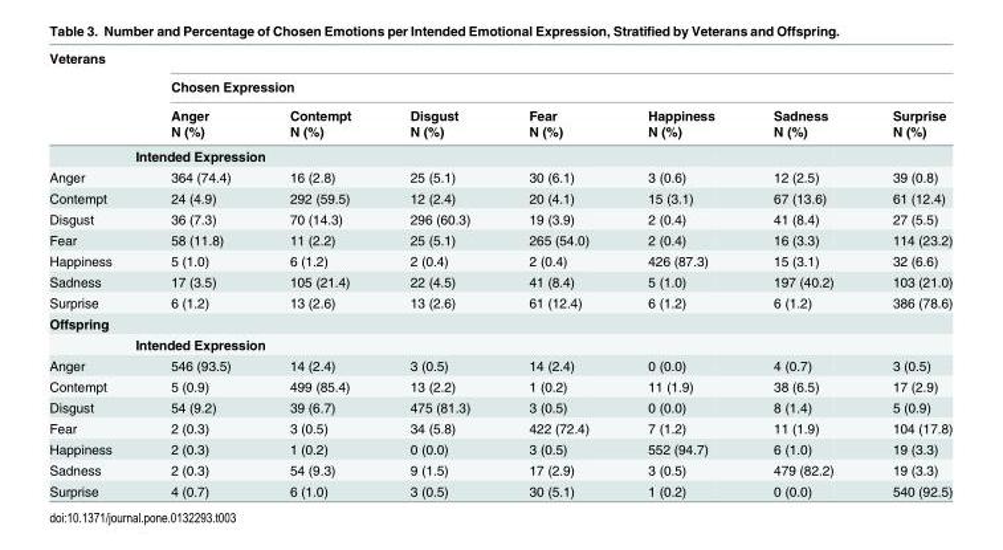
<table><thead><tr><td rowspan="4">Veterans</td><td></td><td></td><td></td><td></td><td></td><td></td><td></td></tr><tr><td colspan="7">Chosen Expression</td></tr><tr><td rowspan="2">Anger N (%)</td><td rowspan="2">Contempt N (%)</td><td rowspan="2">Disgust N (%)</td><td rowspan="2">Fear N (%)</td><td rowspan="2">Happiness N (%)</td><td rowspan="2">Sadness N (%)</td><td rowspan="2">Surprise N (%)</td></tr><tr></tr></thead><tbody><tr><td colspan="8">Intended Expression</td></tr><tr><td>Anger</td><td>364 (74.4)</td><td>16 (2.8)</td><td>25 (5.1)</td><td>30 (6.1)</td><td>3 (0.6)</td><td>12 (2.5)</td><td>39 (0.8)</td></tr><tr><td>Contempt</td><td>24 (4.9)</td><td>292 (59.5)</td><td>12 (2.4)</td><td>20 (4.1)</td><td>15 (3.1)</td><td>67 (13.6)</td><td>61 (12.4)</td></tr><tr><td>Disgust</td><td>36 (7.3)</td><td>70 (14.3)</td><td>296 (60.3)</td><td>19 (3.9)</td><td>2 (0.4)</td><td>41 (8.4)</td><td>27 (5.5)</td></tr><tr><td>Fear</td><td>58 (11.8)</td><td>11 (2.2)</td><td>25 (5.1)</td><td>265 (54.0)</td><td>2 (0.4)</td><td>16 (3.3)</td><td>114 (23.2)</td></tr><tr><td>Happiness</td><td>5 (1.0)</td><td>6 (1.2)</td><td>2 (0.4)</td><td>2 (0.4)</td><td>426 (87.3)</td><td>15 (3.1)</td><td>32 (6.6)</td></tr><tr><td>Sadness</td><td>17 (3.5)</td><td>105 (21.4)</td><td>22 (4.5)</td><td>41 (8.4)</td><td>5 (1.0)</td><td>197 (40.2)</td><td>103 (21.0)</td></tr><tr><td>Surprise</td><td>6 (1.2)</td><td>13 (2.6)</td><td>13 (2.6)</td><td>61 (12.4)</td><td>6 (1.2)</td><td>6 (1.2)</td><td>386 (78.6)</td></tr><tr><td colspan="8">Offspring</td></tr><tr><td colspan="8">Intended Expression</td></tr><tr><td>Anger</td><td>546 (93.5)</td><td>14 (2.4)</td><td>3 (0.5)</td><td>14 (2.4)</td><td>0 (0.0)</td><td>4 (0.7)</td><td>3 (0.5)</td></tr><tr><td>Contempt</td><td>5 (0.9)</td><td>499 (85.4)</td><td>13 (2.2)</td><td>1 (0.2)</td><td>11 (1.9)</td><td>38 (6.5)</td><td>17 (2.9)</td></tr><tr><td>Disgust</td><td>54 (9.2)</td><td>39 (6.7)</td><td>475 (81.3)</td><td>3 (0.5)</td><td>0 (0.0)</td><td>8 (1.4)</td><td>5 (0.9)</td></tr><tr><td>Fear</td><td>2 (0.3)</td><td>3 (0.5)</td><td>34 (5.8)</td><td>422 (72.4)</td><td>7 (1.2)</td><td>11 (1.9)</td><td>104 (17.8)</td></tr><tr><td>Happiness</td><td>2 (0.3)</td><td>1 (0.2)</td><td>0 (0.0)</td><td>3 (0.5)</td><td>552 (94.7)</td><td>6 (1.0)</td><td>19 (3.3)</td></tr><tr><td>Sadness</td><td>2 (0.3)</td><td>54 (9.3)</td><td>9 (1.5)</td><td>17 (2.9)</td><td>3 (0.5)</td><td>479 (82.2)</td><td>19 (3.3)</td></tr><tr><td>Surprise</td><td>4 (0.7)</td><td>6 (1.0)</td><td>3 (0.5)</td><td>30 (5.1)</td><td>1 (0.2)</td><td>0 (0.0)</td><td>540 (92.5)</td></tr></tbody></table>